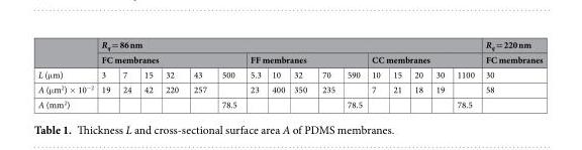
<table><thead><tr><td rowspan="3">L (μm)</td><td colspan="16">R<sub>q</sub> = 86 nm</td><td rowspan="3">R<sub>q</sub> = 220 nm FC membranes 30</td></tr><tr><td colspan="6">FC membranes</td><td colspan="5">FF membranes</td><td colspan="5">CC membranes</td></tr><tr><td>3</td><td>7</td><td>15</td><td>32</td><td>43</td><td>500</td><td>5.3</td><td>10</td><td>32</td><td>70</td><td>590</td><td>10</td><td>15</td><td>20</td><td>30</td><td>1100</td></tr></thead><tbody><tr><td>A (μm<sup>2</sup>) × 10<sup>−2</sup></td><td>19</td><td>24</td><td>42</td><td>220</td><td>257</td><td></td><td>23</td><td>400</td><td>350</td><td>235</td><td></td><td>7</td><td>21</td><td>18</td><td>19</td><td></td><td>58</td></tr><tr><td>A (mm<sup>2</sup>)</td><td></td><td></td><td></td><td></td><td></td><td>78.5</td><td></td><td></td><td></td><td></td><td>78.5</td><td></td><td></td><td></td><td></td><td>78.5</td><td></td></tr></tbody></table>